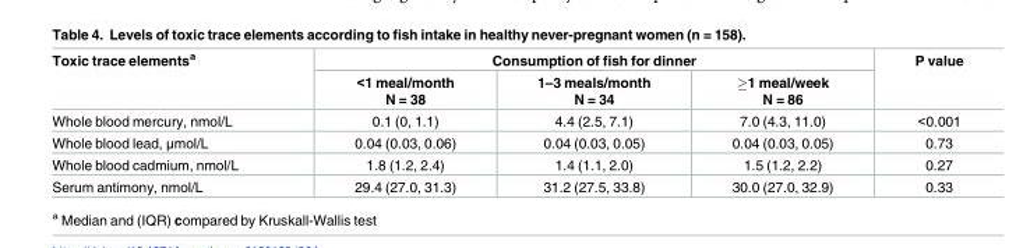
<table><thead><tr><td rowspan="2">Toxic trace elements<sup>a</sup></td><td colspan="3">Consumption of fish for dinner</td><td rowspan="2">P value</td></tr><tr><td>&lt;1 meal/month N = 38</td><td>1–3 meals/month N = 34</td><td>≥1 meal/week N = 86</td></tr></thead><tbody><tr><td>Whole blood mercury, nmol/L</td><td>0.1 (0, 1.1)</td><td>4.4 (2.5, 7.1)</td><td>7.0 (4.3, 11.0)</td><td>&lt;0.001</td></tr><tr><td>Whole blood lead, μmol/L</td><td>0.04 (0.03, 0.06)</td><td>0.04 (0.03, 0.05)</td><td>0.04 (0.03, 0.05)</td><td>0.73</td></tr><tr><td>Whole blood cadmium, nmol/L</td><td>1.8 (1.2, 2.4)</td><td>1.4 (1.1, 2.0)</td><td>1.5 (1.2, 2.2)</td><td>0.27</td></tr><tr><td>Serum antimony, nmol/L</td><td>29.4 (27.0, 31.3)</td><td>31.2 (27.5, 33.8)</td><td>30.0 (27.0, 32.9)</td><td>0.33</td></tr></tbody></table>